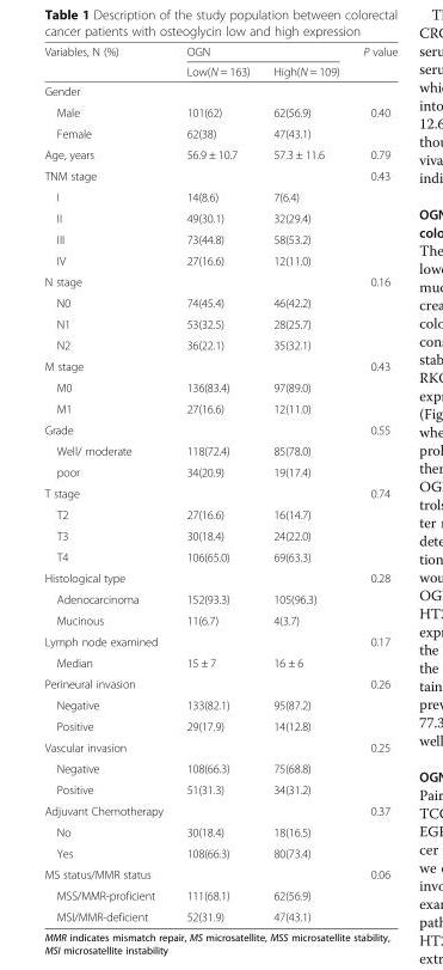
<table><thead><tr><td rowspan="2">Variables, N (%)</td><td colspan="2">OGN</td><td rowspan="2">P value</td></tr><tr><td>Low(N = 163)</td><td>High(N = 109)</td></tr></thead><tbody><tr><td colspan="4">Gender</td></tr><tr><td>Male</td><td>101(62)</td><td>62(56.9)</td><td>0.40</td></tr><tr><td>Female</td><td>62(38)</td><td>47(43.1)</td><td></td></tr><tr><td>Age, years</td><td>56.9 ± 10.7</td><td>57.3 ± 11.6</td><td>0.79</td></tr><tr><td>TNM stage</td><td></td><td></td><td>0.43</td></tr><tr><td>I</td><td>14(8.6)</td><td>7(6.4)</td><td></td></tr><tr><td>II</td><td>49(30.1)</td><td>32(29.4)</td><td></td></tr><tr><td>III</td><td>73(44.8)</td><td>58(53.2)</td><td></td></tr><tr><td>IV</td><td>27(16.6)</td><td>12(11.0)</td><td></td></tr><tr><td>N stage</td><td></td><td></td><td>0.16</td></tr><tr><td>N0</td><td>74(45.4)</td><td>46(42.2)</td><td></td></tr><tr><td>N1</td><td>53(32.5)</td><td>28(25.7)</td><td></td></tr><tr><td>N2</td><td>36(22.1)</td><td>35(32.1)</td><td></td></tr><tr><td>M stage</td><td></td><td></td><td>0.43</td></tr><tr><td>M0</td><td>136(83.4)</td><td>97(89.0)</td><td></td></tr><tr><td>M1</td><td>27(16.6)</td><td>12(11.0)</td><td></td></tr><tr><td>Grade</td><td></td><td></td><td>0.55</td></tr><tr><td>Well/ moderate</td><td>118(72.4)</td><td>85(78.0)</td><td></td></tr><tr><td>poor</td><td>34(20.9)</td><td>19(17.4)</td><td></td></tr><tr><td>T stage</td><td></td><td></td><td>0.74</td></tr><tr><td>T2</td><td>27(16.6)</td><td>16(14.7)</td><td></td></tr><tr><td>T3</td><td>30(18.4)</td><td>24(22.0)</td><td></td></tr><tr><td>T4</td><td>106(65.0)</td><td>69(63.3)</td><td></td></tr><tr><td>Histological type</td><td></td><td></td><td>0.28</td></tr><tr><td>Adenocarcinoma</td><td>152(93.3)</td><td>105(96.3)</td><td></td></tr><tr><td>Mucinous</td><td>11(6.7)</td><td>4(3.7)</td><td></td></tr><tr><td>Lymph node examined</td><td></td><td></td><td>0.17</td></tr><tr><td>Median</td><td>15 ± 7</td><td>16 ± 6</td><td></td></tr><tr><td>Perineural invasion</td><td></td><td></td><td>0.26</td></tr><tr><td>Negative</td><td>133(82.1)</td><td>95(87.2)</td><td></td></tr><tr><td>Positive</td><td>29(17.9)</td><td>14(12.8)</td><td></td></tr><tr><td>Vascular invasion</td><td></td><td></td><td>0.25</td></tr><tr><td>Negative</td><td>108(66.3)</td><td>75(68.8)</td><td></td></tr><tr><td>Positive</td><td>51(31.3)</td><td>34(31.2)</td><td></td></tr><tr><td>Adjuvant Chemotherapy</td><td></td><td></td><td>0.37</td></tr><tr><td>No</td><td>30(18.4)</td><td>18(16.5)</td><td></td></tr><tr><td>Yes</td><td>108(66.3)</td><td>80(73.4)</td><td></td></tr><tr><td>MS status/MMR status</td><td></td><td></td><td>0.06</td></tr><tr><td>MSS/MMR-proficient</td><td>111(68.1)</td><td>62(56.9)</td><td></td></tr><tr><td>MSI/MMR-deficient</td><td>52(31.9)</td><td>47(43.1)</td><td></td></tr></tbody></table>